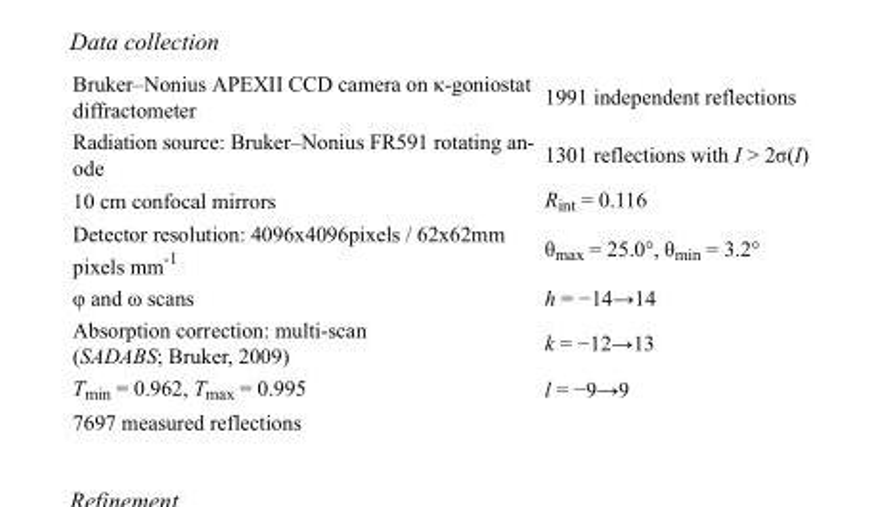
<table><tbody><tr><td>Bruker–Nonius APEXII CCD camera on κ-goniostat diffractometer</td><td>1991 independent reflections</td></tr><tr><td>Radiation source: Bruker–Nonius FR591 rotating an- ode</td><td>1301 reflections with I &gt; 2σ(I)</td></tr><tr><td>10 cm confocal mirrors</td><td>R<sub>int</sub> = 0.116</td></tr><tr><td>Detector resolution: 4096x4096pixels / 62x62mm pixels mm<sup>-1</sup></td><td>θ<sub>max</sub> = 25.0°, θ<sub>min</sub> = 3.2°</td></tr><tr><td>φ and ω scans</td><td>h = −14→14</td></tr><tr><td>Absorption correction: multi-scan (SADABS; Bruker, 2009)</td><td>k = −12→13</td></tr><tr><td>T<sub>min</sub> = 0.962, T<sub>max</sub> = 0.995</td><td>l = −9→9</td></tr><tr><td>7697 measured reflections</td><td></td></tr></tbody></table>